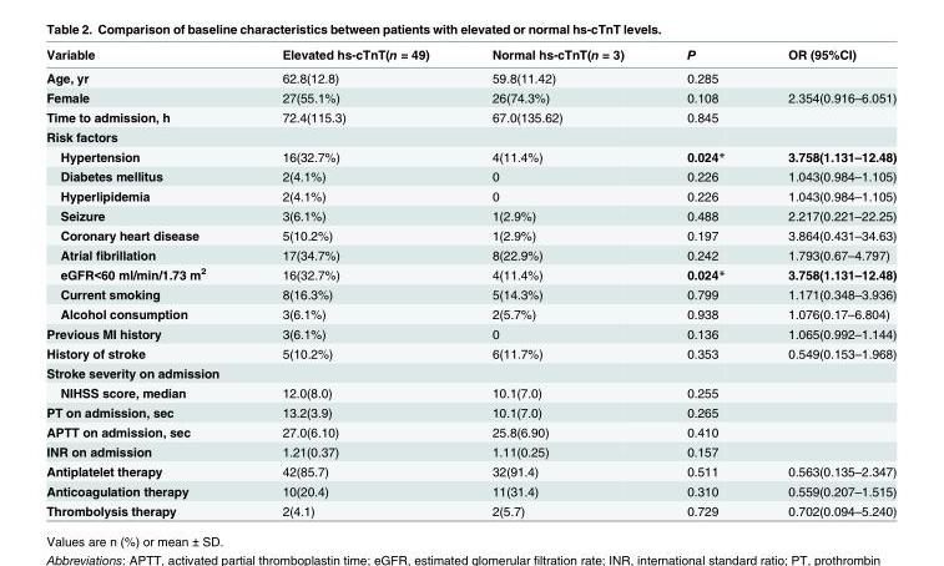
<table><thead><tr><td>Variable</td><td>Elevated hs-cTnT(n = 49)</td><td>Normal hs-cTnT(n = 3)</td><td>P</td><td>OR (95%CI)</td></tr></thead><tbody><tr><td>Age, yr</td><td>62.8(12.8)</td><td>59.8(11.42)</td><td>0.285</td><td></td></tr><tr><td>Female</td><td>27(55.1%)</td><td>26(74.3%)</td><td>0.108</td><td>2.354(0.916–6.051)</td></tr><tr><td>Time to admission, h</td><td>72.4(115.3)</td><td>67.0(135.62)</td><td>0.845</td><td></td></tr><tr><td colspan="5">Risk factors</td></tr><tr><td>Hypertension</td><td>16(32.7%)</td><td>4(11.4%)</td><td>0.024*</td><td>3.758(1.131–12.48)</td></tr><tr><td>Diabetes mellitus</td><td>2(4.1%)</td><td>0</td><td>0.226</td><td>1.043(0.984–1.105)</td></tr><tr><td>Hyperlipidemia</td><td>2(4.1%)</td><td>0</td><td>0.226</td><td>1.043(0.984–1.105)</td></tr><tr><td>Seizure</td><td>3(6.1%)</td><td>1(2.9%)</td><td>0.488</td><td>2.217(0.221–22.25)</td></tr><tr><td>Coronary heart disease</td><td>5(10.2%)</td><td>1(2.9%)</td><td>0.197</td><td>3.864(0.431–34.63)</td></tr><tr><td>Atrial fibrillation</td><td>17(34.7%)</td><td>8(22.9%)</td><td>0.242</td><td>1.793(0.67–4.797)</td></tr><tr><td>eGFR&lt;60 ml/min/1.73 m<sup>2</sup></td><td>16(32.7%)</td><td>4(11.4%)</td><td>0.024*</td><td>3.758(1.131–12.48)</td></tr><tr><td>Current smoking</td><td>8(16.3%)</td><td>5(14.3%)</td><td>0.799</td><td>1.171(0.348–3.936)</td></tr><tr><td>Alcohol consumption</td><td>3(6.1%)</td><td>2(5.7%)</td><td>0.938</td><td>1.076(0.17–6.804)</td></tr><tr><td>Previous MI history</td><td>3(6.1%)</td><td>0</td><td>0.136</td><td>1.065(0.992–1.144)</td></tr><tr><td>History of stroke</td><td>5(10.2%)</td><td>6(11.7%)</td><td>0.353</td><td>0.549(0.153–1.968)</td></tr><tr><td colspan="5">Stroke severity on admission</td></tr><tr><td>NIHSS score, median</td><td>12.0(8.0)</td><td>10.1(7.0)</td><td>0.255</td><td></td></tr><tr><td>PT on admission, sec</td><td>13.2(3.9)</td><td>10.1(7.0)</td><td>0.265</td><td></td></tr><tr><td>APTT on admission, sec</td><td>27.0(6.10)</td><td>25.8(6.90)</td><td>0.410</td><td></td></tr><tr><td>INR on admission</td><td>1.21(0.37)</td><td>1.11(0.25)</td><td>0.157</td><td></td></tr><tr><td>Antiplatelet therapy</td><td>42(85.7)</td><td>32(91.4)</td><td>0.511</td><td>0.563(0.135–2.347)</td></tr><tr><td>Anticoagulation therapy</td><td>10(20.4)</td><td>11(31.4)</td><td>0.310</td><td>0.559(0.207–1.515)</td></tr><tr><td>Thrombolysis therapy</td><td>2(4.1)</td><td>2(5.7)</td><td>0.729</td><td>0.702(0.094–5.240)</td></tr></tbody></table>